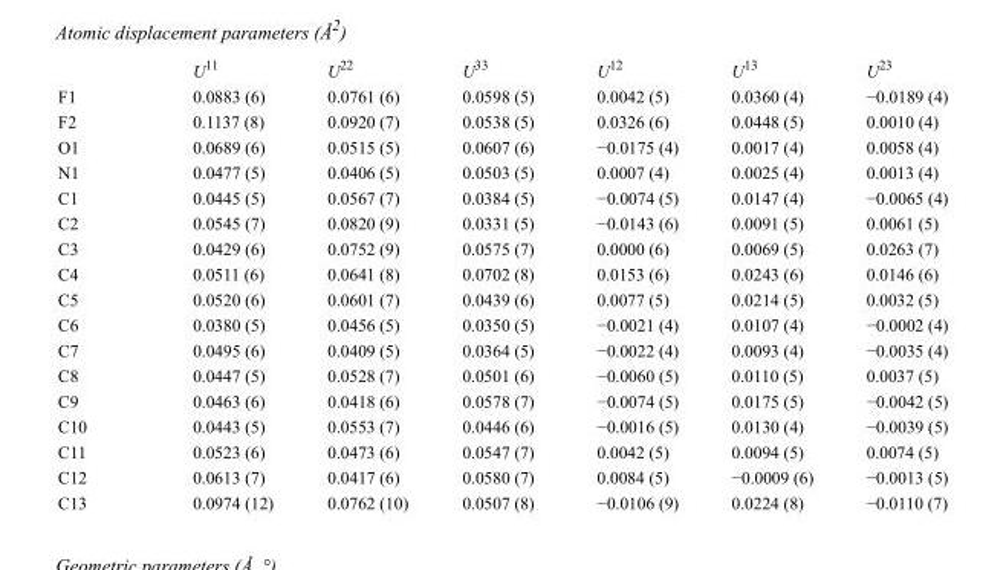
<table><thead><tr><td></td><td>U<sup>11</sup></td><td>U<sup>22</sup></td><td>U<sup>33</sup></td><td>U<sup>12</sup></td><td>U<sup>13</sup></td><td>U<sup>23</sup></td></tr></thead><tbody><tr><td>F1</td><td>0.0883 (6)</td><td>0.0761 (6)</td><td>0.0598 (5)</td><td>0.0042 (5)</td><td>0.0360 (4)</td><td>−0.0189 (4)</td></tr><tr><td>F2</td><td>0.1137 (8)</td><td>0.0920 (7)</td><td>0.0538 (5)</td><td>0.0326 (6)</td><td>0.0448 (5)</td><td>0.0010 (4)</td></tr><tr><td>O1</td><td>0.0689 (6)</td><td>0.0515 (5)</td><td>0.0607 (6)</td><td>−0.0175 (4)</td><td>0.0017 (4)</td><td>0.0058 (4)</td></tr><tr><td>N1</td><td>0.0477 (5)</td><td>0.0406 (5)</td><td>0.0503 (5)</td><td>0.0007 (4)</td><td>0.0025 (4)</td><td>0.0013 (4)</td></tr><tr><td>C1</td><td>0.0445 (5)</td><td>0.0567 (7)</td><td>0.0384 (5)</td><td>−0.0074 (5)</td><td>0.0147 (4)</td><td>−0.0065 (4)</td></tr><tr><td>C2</td><td>0.0545 (7)</td><td>0.0820 (9)</td><td>0.0331 (5)</td><td>−0.0143 (6)</td><td>0.0091 (5)</td><td>0.0061 (5)</td></tr><tr><td>C3</td><td>0.0429 (6)</td><td>0.0752 (9)</td><td>0.0575 (7)</td><td>0.0000 (6)</td><td>0.0069 (5)</td><td>0.0263 (7)</td></tr><tr><td>C4</td><td>0.0511 (6)</td><td>0.0641 (8)</td><td>0.0702 (8)</td><td>0.0153 (6)</td><td>0.0243 (6)</td><td>0.0146 (6)</td></tr><tr><td>C5</td><td>0.0520 (6)</td><td>0.0601 (7)</td><td>0.0439 (6)</td><td>0.0077 (5)</td><td>0.0214 (5)</td><td>0.0032 (5)</td></tr><tr><td>C6</td><td>0.0380 (5)</td><td>0.0456 (5)</td><td>0.0350 (5)</td><td>−0.0021 (4)</td><td>0.0107 (4)</td><td>−0.0002 (4)</td></tr><tr><td>C7</td><td>0.0495 (6)</td><td>0.0409 (5)</td><td>0.0364 (5)</td><td>−0.0022 (4)</td><td>0.0093 (4)</td><td>−0.0035 (4)</td></tr><tr><td>C8</td><td>0.0447 (5)</td><td>0.0528 (7)</td><td>0.0501 (6)</td><td>−0.0060 (5)</td><td>0.0110 (5)</td><td>0.0037 (5)</td></tr><tr><td>C9</td><td>0.0463 (6)</td><td>0.0418 (6)</td><td>0.0578 (7)</td><td>−0.0074 (5)</td><td>0.0175 (5)</td><td>−0.0042 (5)</td></tr><tr><td>C10</td><td>0.0443 (5)</td><td>0.0553 (7)</td><td>0.0446 (6)</td><td>−0.0016 (5)</td><td>0.0130 (4)</td><td>−0.0039 (5)</td></tr><tr><td>C11</td><td>0.0523 (6)</td><td>0.0473 (6)</td><td>0.0547 (7)</td><td>0.0042 (5)</td><td>0.0094 (5)</td><td>0.0074 (5)</td></tr><tr><td>C12</td><td>0.0613 (7)</td><td>0.0417 (6)</td><td>0.0580 (7)</td><td>0.0084 (5)</td><td>−0.0009 (6)</td><td>−0.0013 (5)</td></tr><tr><td>C13</td><td>0.0974 (12)</td><td>0.0762 (10)</td><td>0.0507 (8)</td><td>−0.0106 (9)</td><td>0.0224 (8)</td><td>−0.0110 (7)</td></tr></tbody></table>